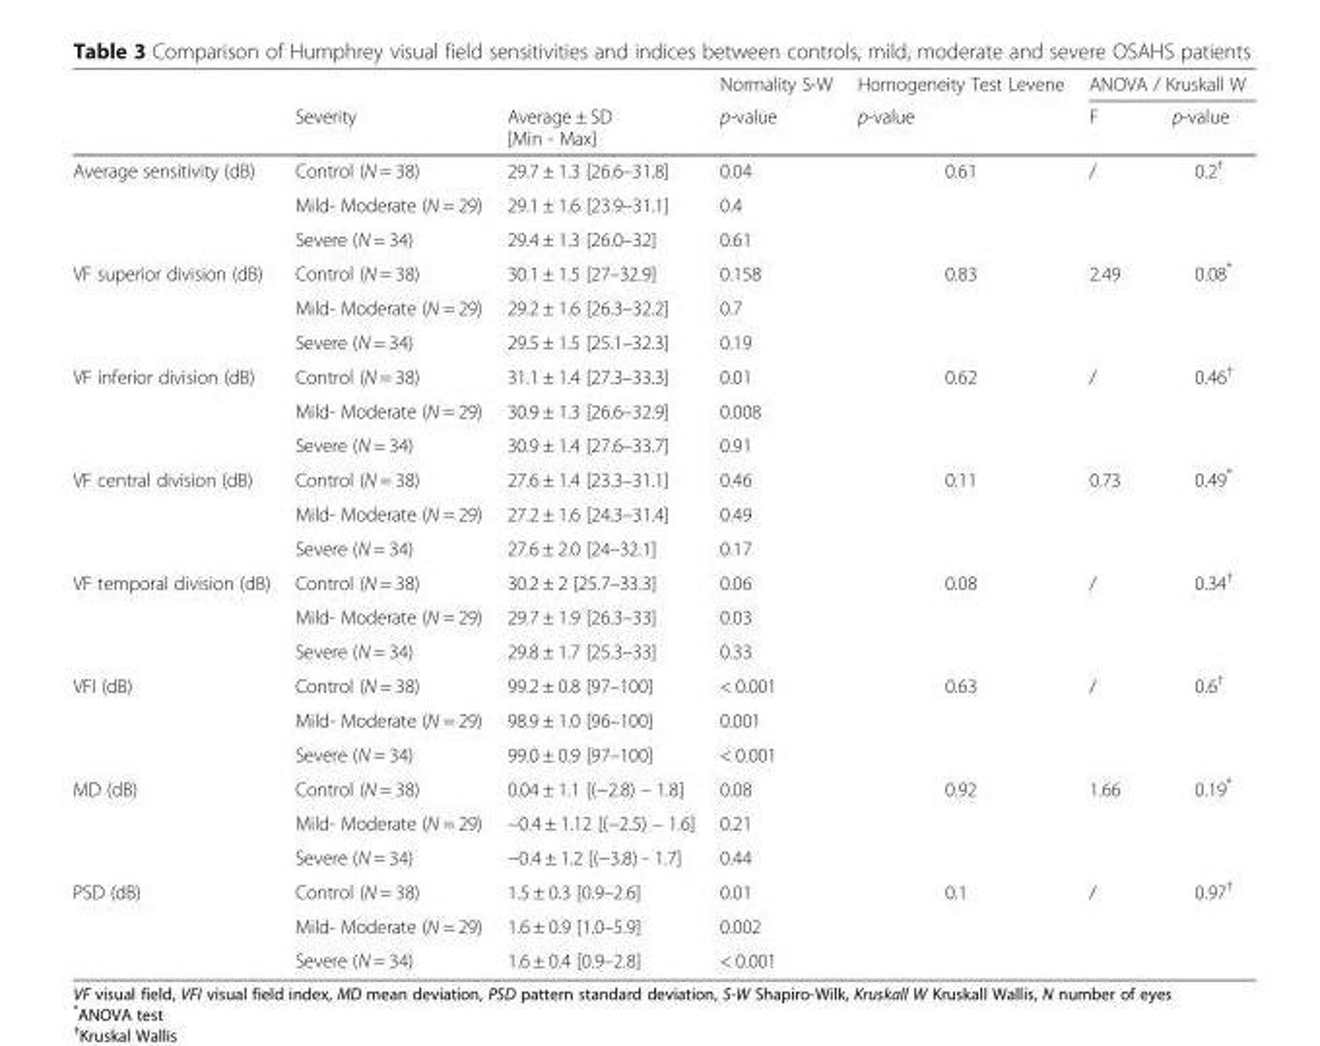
<table><thead><tr><td rowspan="2"></td><td rowspan="2">Severity</td><td rowspan="2">Average ± SD [Min - Max]</td><td rowspan="2">Normality S-W p-value</td><td rowspan="2">Homogeneity Test Levene p-value</td><td colspan="2">ANOVA / Kruskall W</td></tr><tr><td>F</td><td>p-value</td></tr></thead><tbody><tr><td rowspan="3">Average sensitivity (dB)</td><td>Control (N = 38)</td><td>29.7 ± 1.3 [26.6–31.8]</td><td>0.04</td><td rowspan="3">0.61</td><td rowspan="3">/</td><td rowspan="3">0.2<sup>†</sup></td></tr><tr><td>Mild- Moderate (N = 29)</td><td>29.1 ± 1.6 [23.9–31.1]</td><td>0.4</td></tr><tr><td>Severe (N = 34)</td><td>29.4 ± 1.3 [26.0–32]</td><td>0.61</td></tr><tr><td rowspan="3">VF superior division (dB)</td><td>Control (N = 38)</td><td>30.1 ± 1.5 [27–32.9]</td><td>0.158</td><td rowspan="3">0.83</td><td rowspan="3">2.49</td><td rowspan="3">0.08*</td></tr><tr><td>Mild- Moderate (N = 29)</td><td>29.2 ± 1.6 [26.3–32.2]</td><td>0.7</td></tr><tr><td>Severe (N = 34)</td><td>29.5 ± 1.5 [25.1–32.3]</td><td>0.19</td></tr><tr><td rowspan="3">VF inferior division (dB)</td><td>Control (N = 38)</td><td>31.1 ± 1.4 [27.3–33.3]</td><td>0.01</td><td rowspan="3">0.62</td><td rowspan="3">/</td><td rowspan="3">0.46<sup>†</sup></td></tr><tr><td>Mild- Moderate (N = 29)</td><td>30.9 ± 1.3 [26.6–32.9]</td><td>0.008</td></tr><tr><td>Severe (N = 34)</td><td>30.9 ± 1.4 [27.6–33.7]</td><td>0.91</td></tr><tr><td rowspan="3">VF central division (dB)</td><td>Control (N = 38)</td><td>27.6 ± 1.4 [23.3–31.1]</td><td>0.46</td><td rowspan="3">0.11</td><td rowspan="3">0.73</td><td rowspan="3">0.49*</td></tr><tr><td>Mild- Moderate (N = 29)</td><td>27.2 ± 1.6 [24.3–31.4]</td><td>0.49</td></tr><tr><td>Severe (N = 34)</td><td>27.6 ± 2.0 [24–32.1]</td><td>0.17</td></tr><tr><td rowspan="3">VF temporal division (dB)</td><td>Control (N = 38)</td><td>30.2 ± 2 [25.7–33.3]</td><td>0.06</td><td rowspan="3">0.08</td><td rowspan="3">/</td><td rowspan="3">0.34<sup>†</sup></td></tr><tr><td>Mild- Moderate (N = 29)</td><td>29.7 ± 1.9 [26.3–33]</td><td>0.03</td></tr><tr><td>Severe (N = 34)</td><td>29.8 ± 1.7 [25.3–33]</td><td>0.33</td></tr><tr><td rowspan="3">VFI (dB)</td><td>Control (N = 38)</td><td>99.2 ± 0.8 [97–100]</td><td>&lt; 0.001</td><td rowspan="3">0.63</td><td rowspan="3">/</td><td rowspan="3">0.6<sup>†</sup></td></tr><tr><td>Mild- Moderate (N = 29)</td><td>98.9 ± 1.0 [96–100]</td><td>0.001</td></tr><tr><td>Severe (N = 34)</td><td>99.0 ± 0.9 [97–100]</td><td>&lt; 0.001</td></tr><tr><td rowspan="3">MD (dB)</td><td>Control (N = 38)</td><td>0.04 ± 1.1 [(−2.8) – 1.8]</td><td>0.08</td><td rowspan="3">0.92</td><td rowspan="3">1.66</td><td rowspan="3">0.19*</td></tr><tr><td>Mild- Moderate (N = 29)</td><td>−0.4 ± 1.12 [(−2.5) – 1.6]</td><td>0.21</td></tr><tr><td>Severe (N = 34)</td><td>−0.4 ± 1.2 [(−3.8) - 1.7]</td><td>0.44</td></tr><tr><td rowspan="3">PSD (dB)</td><td>Control (N = 38)</td><td>1.5 ± 0.3 [0.9–2.6]</td><td>0.01</td><td rowspan="3">0.1</td><td rowspan="3">/</td><td rowspan="3">0.97<sup>†</sup></td></tr><tr><td>Mild- Moderate (N = 29)</td><td>1.6 ± 0.9 [1.0–5.9]</td><td>0.002</td></tr><tr><td>Severe (N = 34)</td><td>1.6 ± 0.4 [0.9–2.8]</td><td>&lt; 0.001</td></tr></tbody></table>